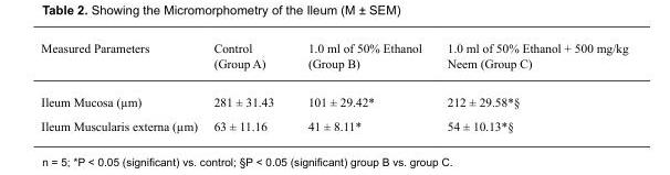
<table><thead><tr><td>Measured Parameters</td><td>Control (Group A)</td><td>1.0 ml of 50% Ethanol (Group B)</td><td>1.0 ml of 50% Ethanol + 500 mg/kg Neem (Group C)</td></tr></thead><tbody><tr><td>Ileum Mucosa (µm)</td><td>281 ± 31.43</td><td>101 ± 29.42*</td><td>212 ± 29.58*§</td></tr><tr><td>Ileum Muscularis externa (µm)</td><td>63 ± 11.16</td><td>41 ± 8.11*</td><td>54 ± 10.13*§</td></tr></tbody></table>